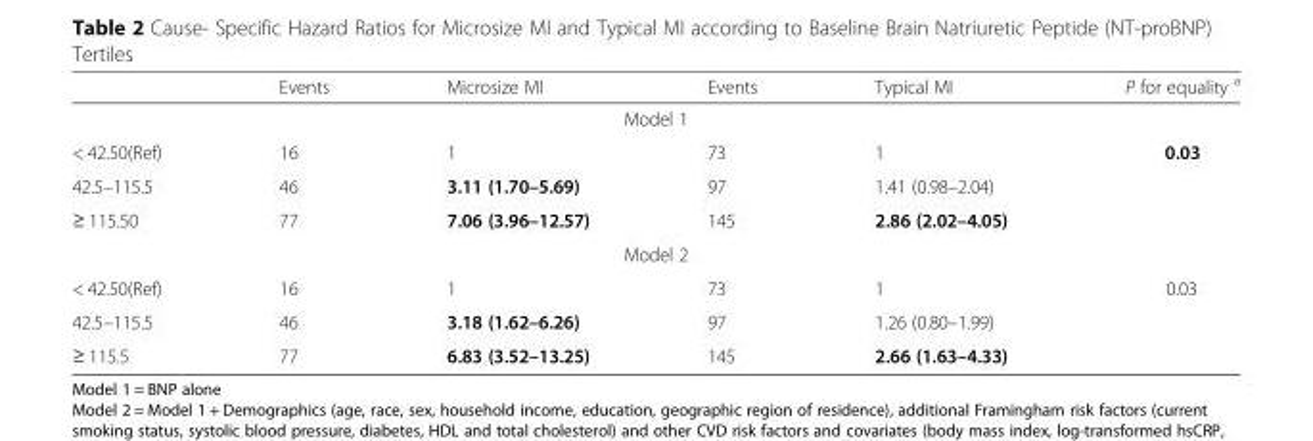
<table><thead><tr><td></td><td>Events</td><td>Microsize MI</td><td>Events</td><td>Typical MI</td><td>P for equality <sup>a</sup></td></tr></thead><tbody><tr><td colspan="6">Model 1</td></tr><tr><td>&lt; 42.50(Ref)</td><td>16</td><td>1</td><td>73</td><td>1</td><td rowspan="3">0.03</td></tr><tr><td>42.5–115.5</td><td>46</td><td>3.11 (1.70–5.69)</td><td>97</td><td>1.41 (0.98–2.04)</td></tr><tr><td>≥ 115.50</td><td>77</td><td>7.06 (3.96–12.57)</td><td>145</td><td>2.86 (2.02–4.05)</td></tr><tr><td colspan="6">Model 2</td></tr><tr><td>&lt; 42.50(Ref)</td><td>16</td><td>1</td><td>73</td><td>1</td><td rowspan="3">0.03</td></tr><tr><td>42.5–115.5</td><td>46</td><td>3.18 (1.62–6.26)</td><td>97</td><td>1.26 (0.80–1.99)</td></tr><tr><td>≥ 115.5</td><td>77</td><td>6.83 (3.52–13.25)</td><td>145</td><td>2.66 (1.63–4.33)</td></tr></tbody></table>